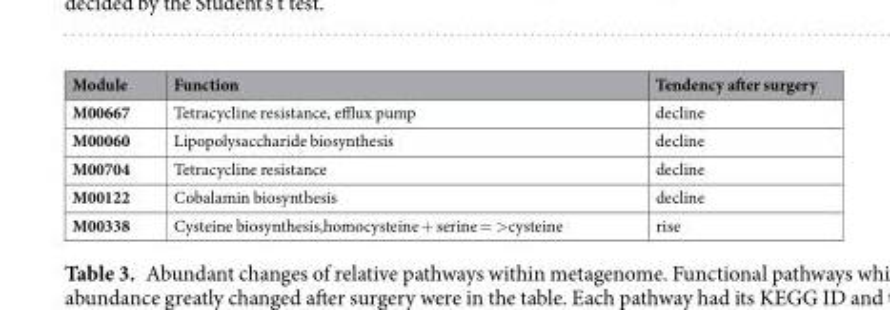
<table><thead><tr><td>Module</td><td>Function</td><td>Tendency after surgery</td></tr></thead><tbody><tr><td>M00667</td><td>Tetracycline resistance, efflux pump</td><td>decline</td></tr><tr><td>M00060</td><td>Lipopolysaccharide biosynthesis</td><td>decline</td></tr><tr><td>M00704</td><td>Tetracycline resistance</td><td>decline</td></tr><tr><td>M00122</td><td>Cobalamin biosynthesis</td><td>decline</td></tr><tr><td>M00338</td><td>Cysteine biosynthesis,homocysteine + serine = &gt;cysteine</td><td>rise</td></tr></tbody></table>